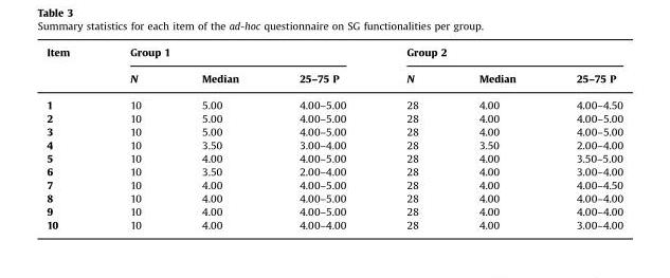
<table><thead><tr><td rowspan="2">Item</td><td colspan="3">Group 1</td><td colspan="3">Group 2</td></tr><tr><td>N</td><td>Median</td><td>25–75 P</td><td>N</td><td>Median</td><td>25–75 P</td></tr></thead><tbody><tr><td>1</td><td>10</td><td>5.00</td><td>4.00–5.00</td><td>28</td><td>4.00</td><td>4.00–4.50</td></tr><tr><td>2</td><td>10</td><td>5.00</td><td>4.00–5.00</td><td>28</td><td>4.00</td><td>4.00–5.00</td></tr><tr><td>3</td><td>10</td><td>5.00</td><td>4.00–5.00</td><td>28</td><td>4.00</td><td>4.00–5.00</td></tr><tr><td>4</td><td>10</td><td>3.50</td><td>3.00–4.00</td><td>28</td><td>3.50</td><td>2.00–4.00</td></tr><tr><td>5</td><td>10</td><td>4.00</td><td>4.00–5.00</td><td>28</td><td>4.00</td><td>3.50–5.00</td></tr><tr><td>6</td><td>10</td><td>3.50</td><td>2.00–4.00</td><td>28</td><td>4.00</td><td>3.00–4.00</td></tr><tr><td>7</td><td>10</td><td>4.00</td><td>4.00–5.00</td><td>28</td><td>4.00</td><td>4.00–4.50</td></tr><tr><td>8</td><td>10</td><td>4.00</td><td>4.00–5.00</td><td>28</td><td>4.00</td><td>4.00–4.00</td></tr><tr><td>9</td><td>10</td><td>4.00</td><td>4.00–5.00</td><td>28</td><td>4.00</td><td>4.00–4.00</td></tr><tr><td>10</td><td>10</td><td>4.00</td><td>4.00–4.00</td><td>28</td><td>4.00</td><td>3.00–4.00</td></tr></tbody></table>